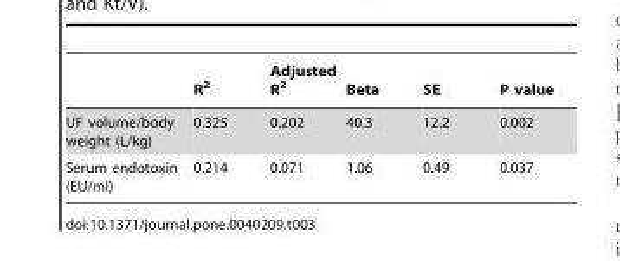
<table><thead><tr><td></td><td>R<sup>2</sup></td><td>Adjusted R<sup>2</sup></td><td>Beta</td><td>SE</td><td>P value</td></tr></thead><tbody><tr><td>UF volume/body weight (L/kg)</td><td>0.325</td><td>0.202</td><td>40.3</td><td>12.2</td><td>0.002</td></tr><tr><td>Serum endotoxin (EU/ml)</td><td>0.214</td><td>0.071</td><td>1.06</td><td>0.49</td><td>0.037</td></tr></tbody></table>